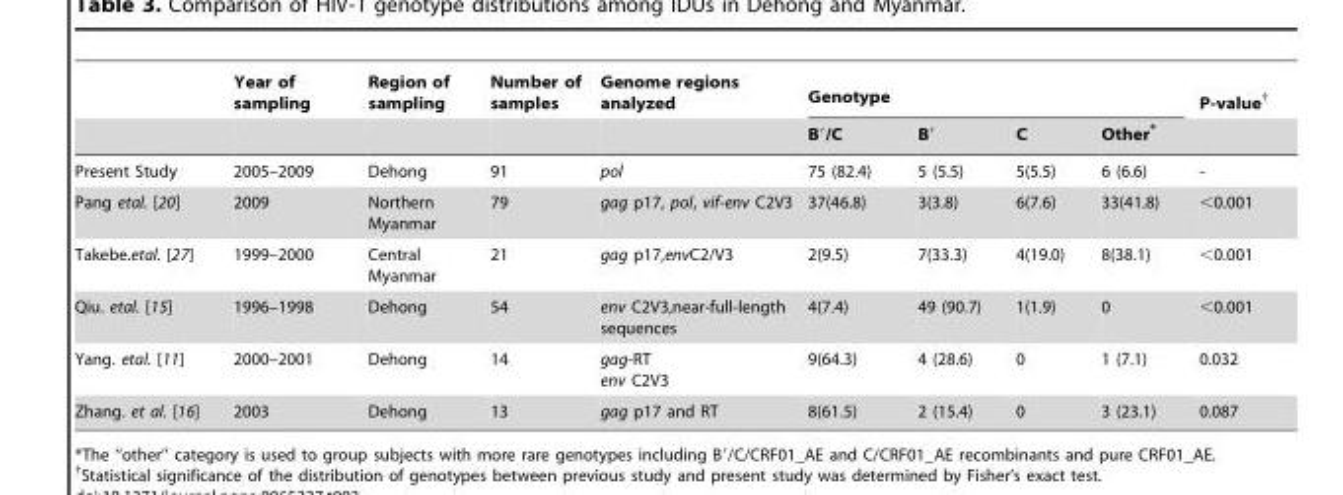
<table><thead><tr><td rowspan="2"></td><td rowspan="2">Year of sampling</td><td rowspan="2">Region of sampling</td><td rowspan="2">Number of samples</td><td rowspan="2">Genome regions analyzed</td><td colspan="4">Genotype</td><td rowspan="2">P-value†</td></tr><tr><td>B′/C</td><td>B′</td><td>C</td><td>Other*</td></tr></thead><tbody><tr><td>Present Study</td><td>2005–2009</td><td>Dehong</td><td>91</td><td>pol</td><td>75 (82.4)</td><td>5 (5.5)</td><td>5(5.5)</td><td>6 (6.6)</td><td>-</td></tr><tr><td>Pang etal. [20]</td><td>2009</td><td>Northern Myanmar</td><td>79</td><td>gag p17, pol, vif-env C2V3</td><td>37(46.8)</td><td>3(3.8)</td><td>6(7.6)</td><td>33(41.8)</td><td>&lt;0.001</td></tr><tr><td>Takebe.etal. [27]</td><td>1999–2000</td><td>Central Myanmar</td><td>21</td><td>gag p17,envC2/V3</td><td>2(9.5)</td><td>7(33.3)</td><td>4(19.0)</td><td>8(38.1)</td><td>&lt;0.001</td></tr><tr><td>Qiu. etal. [15]</td><td>1996–1998</td><td>Dehong</td><td>54</td><td>env C2V3,near-full-length sequences</td><td>4(7.4)</td><td>49 (90.7)</td><td>1(1.9)</td><td>0</td><td>&lt;0.001</td></tr><tr><td>Yang. etal. [11]</td><td>2000–2001</td><td>Dehong</td><td>14</td><td>gag-RT env C2V3</td><td>9(64.3)</td><td>4 (28.6)</td><td>0</td><td>1 (7.1)</td><td>0.032</td></tr><tr><td>Zhang. et al. [16]</td><td>2003</td><td>Dehong</td><td>13</td><td>gag p17 and RT</td><td>8(61.5)</td><td>2 (15.4)</td><td>0</td><td>3 (23.1)</td><td>0.087</td></tr></tbody></table>